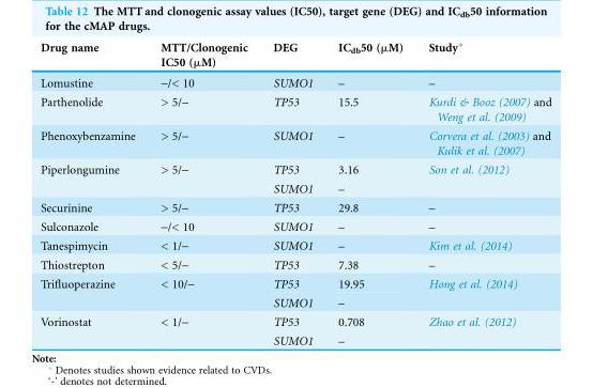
<table><thead><tr><td>Drug name</td><td>MTT/Clonogenic IC50 (μM)</td><td>DEG</td><td>IC<sub>db</sub>50 (μM)</td><td>Study*</td></tr></thead><tbody><tr><td>Lomustine</td><td>-/&lt; 10</td><td>SUMO1</td><td>–</td><td>–</td></tr><tr><td>Parthenolide</td><td>&gt; 5/-</td><td>TP53</td><td>15.5</td><td>Kurdi &amp; Booz (2007) and Weng et al. (2009)</td></tr><tr><td>Phenoxybenzamine</td><td>&gt; 5/-</td><td>SUMO1</td><td>–</td><td>Corvera et al. (2003) and Kulik et al. (2007)</td></tr><tr><td rowspan="2">Piperlongumine</td><td rowspan="2">&gt; 5/-</td><td>TP53</td><td>3.16</td><td rowspan="2">Son et al. (2012)</td></tr><tr><td>SUMO1</td><td>–</td></tr><tr><td>Securinine</td><td>&gt; 5/-</td><td>TP53</td><td>29.8</td><td>–</td></tr><tr><td>Sulconazole</td><td>-/&lt; 10</td><td>SUMO1</td><td>–</td><td>–</td></tr><tr><td>Tanespimycin</td><td>&lt; 1/-</td><td>SUMO1</td><td>–</td><td>Kim et al. (2014)</td></tr><tr><td>Thiostrepton</td><td>&lt; 5/-</td><td>TP53</td><td>7.38</td><td>–</td></tr><tr><td rowspan="2">Trifluoperazine</td><td rowspan="2">&lt; 10/-</td><td>TP53</td><td>19.95</td><td rowspan="2">Hong et al. (2014)</td></tr><tr><td>SUMO1</td><td>–</td></tr><tr><td rowspan="2">Vorinostat</td><td rowspan="2">&lt; 1/-</td><td>TP53</td><td>0.708</td><td rowspan="2">Zhao et al. (2012)</td></tr><tr><td>SUMO1</td><td>–</td></tr></tbody></table>